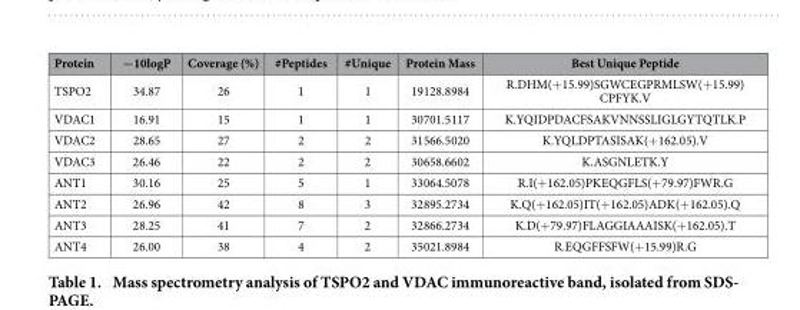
<table><thead><tr><td>Protein</td><td>−10logP</td><td>Coverage (%)</td><td>#Peptides</td><td>#Unique</td><td>Protein Mass</td><td>Best Unique Peptide</td></tr></thead><tbody><tr><td>TSPO2</td><td>34.87</td><td>26</td><td>1</td><td>1</td><td>19128.8984</td><td>R.DHM(+ 15.99)SGWCEGPRMLSW(+ 15.99) CPFYK.V</td></tr><tr><td>VDAC1</td><td>16.91</td><td>15</td><td>1</td><td>1</td><td>30701.5117</td><td>K.YQIDPDACFSAKVNNSSLIGLGYTQTLK.P</td></tr><tr><td>VDAC2</td><td>28.65</td><td>27</td><td>2</td><td>2</td><td>31566.5020</td><td>K.YQLDPTASISAK(+ 162.05).V</td></tr><tr><td>VDAC3</td><td>26.46</td><td>22</td><td>2</td><td>2</td><td>30658.6602</td><td>K.ASGNLETK.Y</td></tr><tr><td>ANT1</td><td>30.16</td><td>25</td><td>5</td><td>1</td><td>33064.5078</td><td>R.I(+ 162.05)PKEQGFLS(+ 79.97)FWR.G</td></tr><tr><td>ANT2</td><td>26.96</td><td>42</td><td>8</td><td>3</td><td>32895.2734</td><td>K.Q(+ 162.05)IT(+ 162.05)ADK(+ 162.05).Q</td></tr><tr><td>ANT3</td><td>28.25</td><td>41</td><td>7</td><td>2</td><td>32866.2734</td><td>K.D(+ 79.97)FLAGGIAAAISK(+ 162.05).T</td></tr><tr><td>ANT4</td><td>26.00</td><td>38</td><td>4</td><td>2</td><td>35021.8984</td><td>R.EQGFFSFW(+ 15.99)R.G</td></tr></tbody></table>